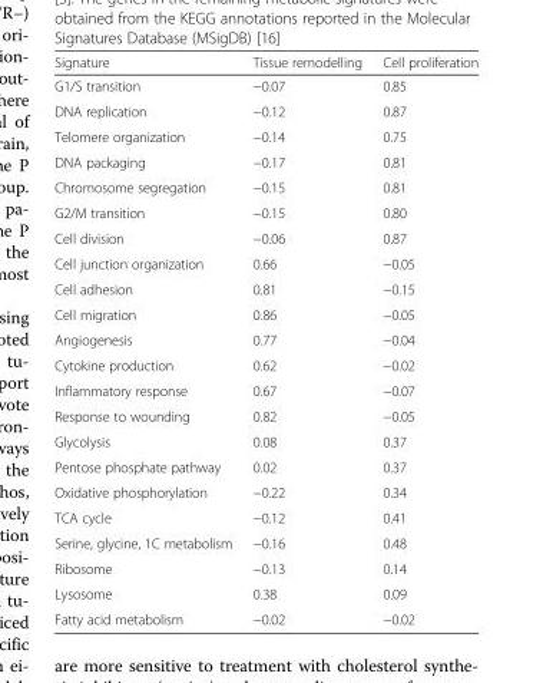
<table><thead><tr><td>Signature</td><td>Tissue remodelling</td><td>Cell proliferation</td></tr></thead><tbody><tr><td>G1/S transition</td><td>−0.07</td><td>0.85</td></tr><tr><td>DNA replication</td><td>−0.12</td><td>0.87</td></tr><tr><td>Telomere organization</td><td>−0.14</td><td>0.75</td></tr><tr><td>DNA packaging</td><td>−0.17</td><td>0.81</td></tr><tr><td>Chromosome segregation</td><td>−0.15</td><td>0.81</td></tr><tr><td>G2/M transition</td><td>−0.15</td><td>0.80</td></tr><tr><td>Cell division</td><td>−0.06</td><td>0.87</td></tr><tr><td>Cell junction organization</td><td>0.66</td><td>−0.05</td></tr><tr><td>Cell adhesion</td><td>0.81</td><td>−0.15</td></tr><tr><td>Cell migration</td><td>0.86</td><td>−0.05</td></tr><tr><td>Angiogenesis</td><td>0.77</td><td>−0.04</td></tr><tr><td>Cytokine production</td><td>0.62</td><td>−0.02</td></tr><tr><td>Inflammatory response</td><td>0.67</td><td>−0.07</td></tr><tr><td>Response to wounding</td><td>0.82</td><td>−0.05</td></tr><tr><td>Glycolysis</td><td>0.08</td><td>0.37</td></tr><tr><td>Pentose phosphate pathway</td><td>0.02</td><td>0.37</td></tr><tr><td>Oxidative phosphorylation</td><td>−0.22</td><td>0.34</td></tr><tr><td>TCA cycle</td><td>−0.12</td><td>0.41</td></tr><tr><td>Serine, glycine, 1C metabolism</td><td>−0.16</td><td>0.48</td></tr><tr><td>Ribosome</td><td>−0.13</td><td>0.14</td></tr><tr><td>Lysosome</td><td>0.38</td><td>0.09</td></tr><tr><td>Fatty acid metabolism</td><td>−0.02</td><td>−0.02</td></tr></tbody></table>